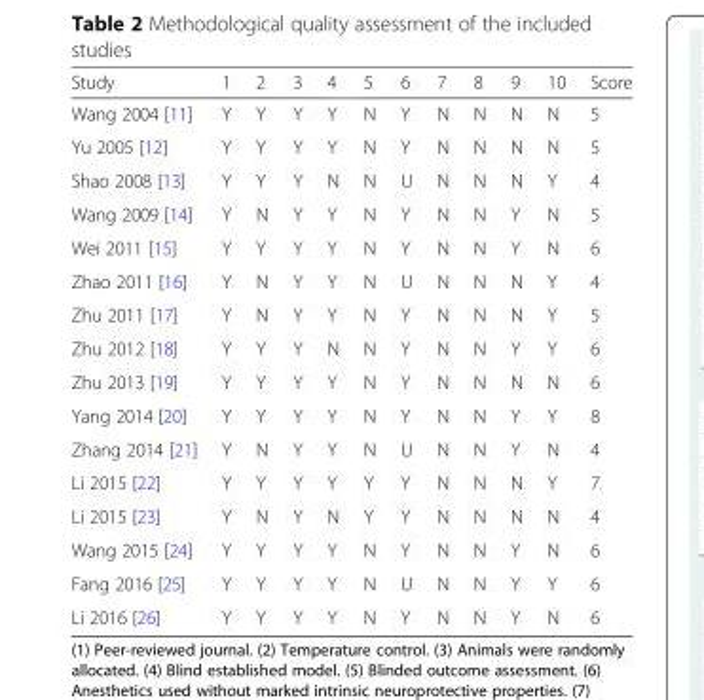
<table><thead><tr><td>Study</td><td>1</td><td>2</td><td>3</td><td>4</td><td>5</td><td>6</td><td>7</td><td>8</td><td>9</td><td>10</td><td>Score</td></tr></thead><tbody><tr><td>Wang 2004 [11]</td><td>Y</td><td>Y</td><td>Y</td><td>Y</td><td>N</td><td>Y</td><td>N</td><td>N</td><td>N</td><td>N</td><td>5</td></tr><tr><td>Yu 2005 [12]</td><td>Y</td><td>Y</td><td>Y</td><td>Y</td><td>N</td><td>Y</td><td>N</td><td>N</td><td>N</td><td>N</td><td>5</td></tr><tr><td>Shao 2008 [13]</td><td>Y</td><td>Y</td><td>Y</td><td>N</td><td>N</td><td>U</td><td>N</td><td>N</td><td>N</td><td>Y</td><td>4</td></tr><tr><td>Wang 2009 [14]</td><td>Y</td><td>N</td><td>Y</td><td>Y</td><td>N</td><td>Y</td><td>N</td><td>N</td><td>Y</td><td>N</td><td>5</td></tr><tr><td>Wei 2011 [15]</td><td>Y</td><td>Y</td><td>Y</td><td>Y</td><td>N</td><td>Y</td><td>N</td><td>N</td><td>Y</td><td>N</td><td>6</td></tr><tr><td>Zhao 2011 [16]</td><td>Y</td><td>N</td><td>Y</td><td>Y</td><td>N</td><td>U</td><td>N</td><td>N</td><td>N</td><td>Y</td><td>4</td></tr><tr><td>Zhu 2011 [17]</td><td>Y</td><td>N</td><td>Y</td><td>Y</td><td>N</td><td>Y</td><td>N</td><td>N</td><td>N</td><td>Y</td><td>5</td></tr><tr><td>Zhu 2012 [18]</td><td>Y</td><td>Y</td><td>Y</td><td>N</td><td>N</td><td>Y</td><td>N</td><td>N</td><td>Y</td><td>Y</td><td>6</td></tr><tr><td>Zhu 2013 [19]</td><td>Y</td><td>Y</td><td>Y</td><td>Y</td><td>N</td><td>Y</td><td>N</td><td>N</td><td>N</td><td>N</td><td>6</td></tr><tr><td>Yang 2014 [20]</td><td>Y</td><td>Y</td><td>Y</td><td>Y</td><td>N</td><td>Y</td><td>N</td><td>N</td><td>Y</td><td>Y</td><td>8</td></tr><tr><td>Zhang 2014 [21]</td><td>Y</td><td>N</td><td>Y</td><td>Y</td><td>N</td><td>U</td><td>N</td><td>N</td><td>Y</td><td>N</td><td>4</td></tr><tr><td>Li 2015 [22]</td><td>Y</td><td>Y</td><td>Y</td><td>Y</td><td>Y</td><td>Y</td><td>N</td><td>N</td><td>N</td><td>Y</td><td>7</td></tr><tr><td>Li 2015 [23]</td><td>Y</td><td>N</td><td>Y</td><td>N</td><td>Y</td><td>Y</td><td>N</td><td>N</td><td>N</td><td>N</td><td>4</td></tr><tr><td>Wang 2015 [24]</td><td>Y</td><td>Y</td><td>Y</td><td>Y</td><td>N</td><td>Y</td><td>N</td><td>N</td><td>Y</td><td>N</td><td>6</td></tr><tr><td>Fang 2016 [25]</td><td>Y</td><td>Y</td><td>Y</td><td>Y</td><td>N</td><td>U</td><td>N</td><td>N</td><td>Y</td><td>Y</td><td>6</td></tr><tr><td>Li 2016 [26]</td><td>Y</td><td>Y</td><td>Y</td><td>Y</td><td>N</td><td>Y</td><td>N</td><td>N</td><td>Y</td><td>N</td><td>6</td></tr></tbody></table>